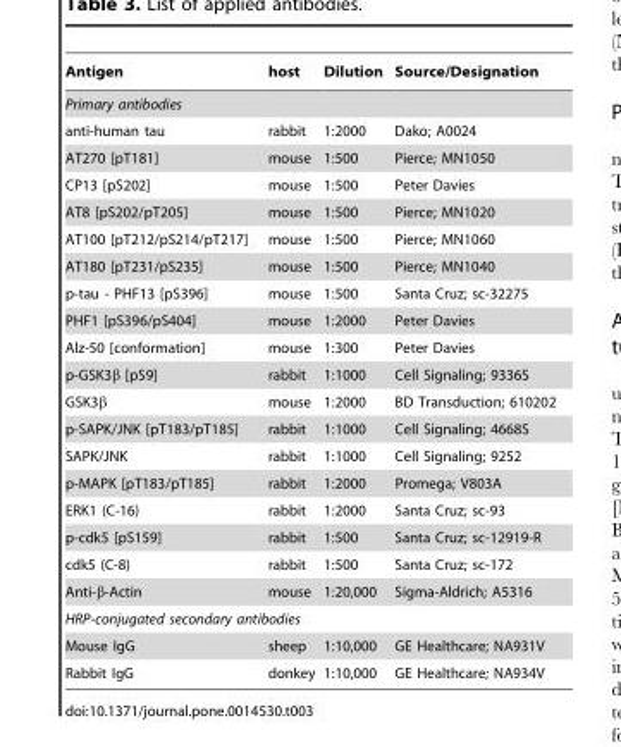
<table><thead><tr><td>Antigen</td><td>host</td><td>Dilution</td><td>Source/Designation</td></tr></thead><tbody><tr><td colspan="4">Primary antibodies</td></tr><tr><td>anti-human tau</td><td>rabbit</td><td>1:2000</td><td>Dako; A0024</td></tr><tr><td>AT270 [pT181]</td><td>mouse</td><td>1:500</td><td>Pierce; MN1050</td></tr><tr><td>CP13 [pS202]</td><td>mouse</td><td>1:500</td><td>Peter Davies</td></tr><tr><td>AT8 [pS202/pT205]</td><td>mouse</td><td>1:500</td><td>Pierce; MN1020</td></tr><tr><td>AT100 [pT212/pS214/pT217]</td><td>mouse</td><td>1:500</td><td>Pierce; MN1060</td></tr><tr><td>AT180 [pT231/pS235]</td><td>mouse</td><td>1:500</td><td>Pierce; MN1040</td></tr><tr><td>p-tau - PHF13 [pS396]</td><td>mouse</td><td>1:500</td><td>Santa Cruz; sc-32275</td></tr><tr><td>PHF1 [pS396/pS404]</td><td>mouse</td><td>1:2000</td><td>Peter Davies</td></tr><tr><td>Alz-50 [conformation]</td><td>mouse</td><td>1:300</td><td>Peter Davies</td></tr><tr><td>p-GSK3β [pS9]</td><td>rabbit</td><td>1:1000</td><td>Cell Signaling; 9336S</td></tr><tr><td>GSK3β</td><td>mouse</td><td>1:2000</td><td>BD Transduction; 610202</td></tr><tr><td>p-SAPK/JNK [pT183/pT185]</td><td>rabbit</td><td>1:1000</td><td>Cell Signaling; 4668S</td></tr><tr><td>SAPK/JNK</td><td>rabbit</td><td>1:1000</td><td>Cell Signaling; 9252</td></tr><tr><td>p-MAPK [pT183/pT185]</td><td>rabbit</td><td>1:2000</td><td>Promega; V803A</td></tr><tr><td>ERK1 (C-16)</td><td>rabbit</td><td>1:2000</td><td>Santa Cruz; sc-93</td></tr><tr><td>p-cdk5 [pS159]</td><td>rabbit</td><td>1:500</td><td>Santa Cruz; sc-12919-R</td></tr><tr><td>cdk5 (C-8)</td><td>rabbit</td><td>1:500</td><td>Santa Cruz; sc-172</td></tr><tr><td>Anti-β-Actin</td><td>mouse</td><td>1:20,000</td><td>Sigma-Aldrich; A5316</td></tr><tr><td colspan="4">HRP-conjugated secondary antibodies</td></tr><tr><td>Mouse IgG</td><td>sheep</td><td>1:10,000</td><td>GE Healthcare; NA931V</td></tr><tr><td>Rabbit IgG</td><td>donkey</td><td>1:10,000</td><td>GE Healthcare; NA934V</td></tr></tbody></table>